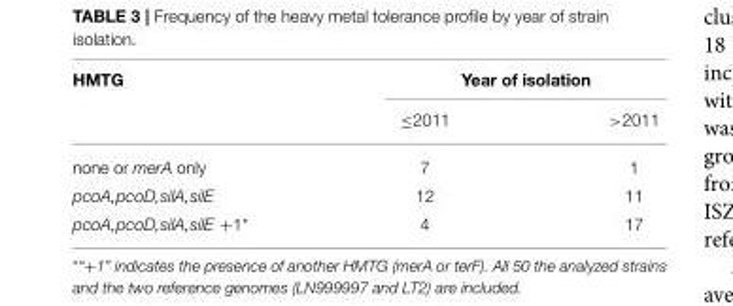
<table><thead><tr><td rowspan="2">HMTG</td><td colspan="2">Year of isolation</td></tr><tr><td>≤2011</td><td>&gt;2011</td></tr></thead><tbody><tr><td>none or merA only</td><td>7</td><td>1</td></tr><tr><td>pcoA,pcoD,silA,silE</td><td>12</td><td>11</td></tr><tr><td>pcoA,pcoD,silA,silE +1*</td><td>4</td><td>17</td></tr></tbody></table>